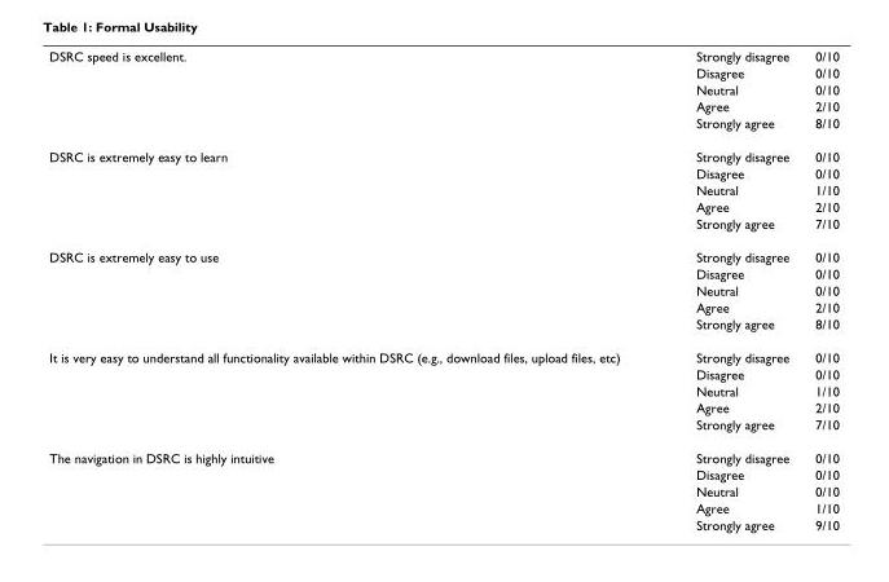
<table><tbody><tr><td rowspan="5">DSRC speed is excellent.</td><td>Strongly disagree</td><td>0/10</td></tr><tr><td>Disagree</td><td>0/10</td></tr><tr><td>Neutral</td><td>0/10</td></tr><tr><td>Agree</td><td>2/10</td></tr><tr><td>Strongly agree</td><td>8/10</td></tr><tr><td rowspan="5">DSRC is extremely easy to learn</td><td>Strongly disagree</td><td>0/10</td></tr><tr><td>Disagree</td><td>0/10</td></tr><tr><td>Neutral</td><td>1/10</td></tr><tr><td>Agree</td><td>2/10</td></tr><tr><td>Strongly agree</td><td>7/10</td></tr><tr><td rowspan="5">DSRC is extremely easy to use</td><td>Strongly disagree</td><td>0/10</td></tr><tr><td>Disagree</td><td>0/10</td></tr><tr><td>Neutral</td><td>0/10</td></tr><tr><td>Agree</td><td>2/10</td></tr><tr><td>Strongly agree</td><td>8/10</td></tr><tr><td rowspan="5">It is very easy to understand all functionality available within DSRC (e.g., download files, upload files, etc)</td><td>Strongly disagree</td><td>0/10</td></tr><tr><td>Disagree</td><td>0/10</td></tr><tr><td>Neutral</td><td>1/10</td></tr><tr><td>Agree</td><td>2/10</td></tr><tr><td>Strongly agree</td><td>7/10</td></tr><tr><td rowspan="5">The navigation in DSRC is highly intuitive</td><td>Strongly disagree</td><td>0/10</td></tr><tr><td>Disagree</td><td>0/10</td></tr><tr><td>Neutral</td><td>0/10</td></tr><tr><td>Agree</td><td>1/10</td></tr><tr><td>Strongly agree</td><td>9/10</td></tr></tbody></table>